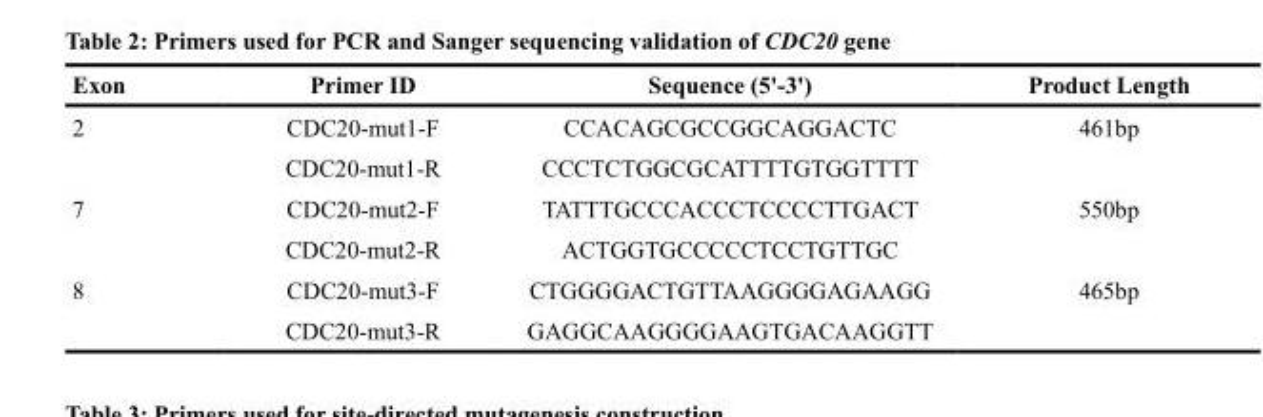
<table><thead><tr><td>Exon</td><td>Primer ID</td><td>Sequence (5&#x27;-3&#x27;)</td><td>Product Length</td></tr></thead><tbody><tr><td rowspan="2">2</td><td>CDC20-mut1-F</td><td>CCACAGCGCCGGCAGGACTC</td><td>461bp</td></tr><tr><td>CDC20-mut1-R</td><td>CCCTCTGGCGCATTTTGTGGTTTT</td><td></td></tr><tr><td rowspan="2">7</td><td>CDC20-mut2-F</td><td>TATTTGCCCACCCTCCCCTTGACT</td><td>550bp</td></tr><tr><td>CDC20-mut2-R</td><td>ACTGGTGCCCCCTCCTGTTGC</td><td></td></tr><tr><td rowspan="2">8</td><td>CDC20-mut3-F</td><td>CTGGGGACTGTTAAGGGGAGAAGG</td><td>465bp</td></tr><tr><td>CDC20-mut3-R</td><td>GAGGCAAGGGGAAGTGACAAGGTT</td><td></td></tr></tbody></table>